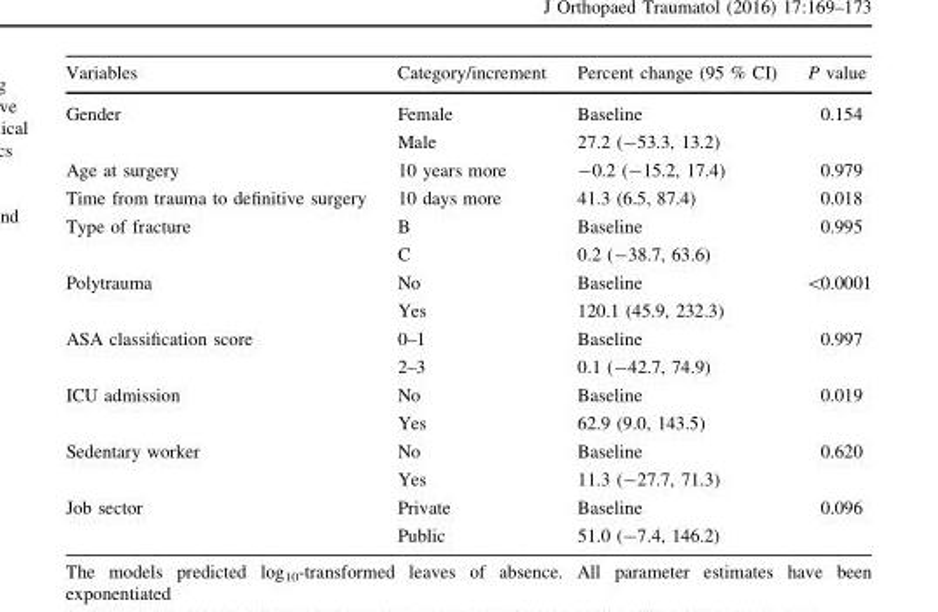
<table><thead><tr><td>Variables</td><td>Category/increment</td><td>Percent change (95 % CI)</td><td>P value</td></tr></thead><tbody><tr><td rowspan="2">Gender</td><td>Female</td><td>Baseline</td><td>0.154</td></tr><tr><td>Male</td><td>27.2 (-53.3, 13.2)</td><td></td></tr><tr><td>Age at surgery</td><td>10 years more</td><td>-0.2 (-15.2, 17.4)</td><td>0.979</td></tr><tr><td>Time from trauma to definitive surgery</td><td>10 days more</td><td>41.3 (6.5, 87.4)</td><td>0.018</td></tr><tr><td rowspan="2">Type of fracture</td><td>B</td><td>Baseline</td><td>0.995</td></tr><tr><td>C</td><td>0.2 (-38.7, 63.6)</td><td></td></tr><tr><td rowspan="2">Polytrauma</td><td>No</td><td>Baseline</td><td>&lt;0.0001</td></tr><tr><td>Yes</td><td>120.1 (45.9, 232.3)</td><td></td></tr><tr><td rowspan="2">ASA classification score</td><td>0–1</td><td>Baseline</td><td>0.997</td></tr><tr><td>2–3</td><td>0.1 (-42.7, 74.9)</td><td></td></tr><tr><td rowspan="2">ICU admission</td><td>No</td><td>Baseline</td><td>0.019</td></tr><tr><td>Yes</td><td>62.9 (9.0, 143.5)</td><td></td></tr><tr><td rowspan="2">Sedentary worker</td><td>No</td><td>Baseline</td><td>0.620</td></tr><tr><td>Yes</td><td>11.3 (-27.7, 71.3)</td><td></td></tr><tr><td rowspan="2">Job sector</td><td>Private</td><td>Baseline</td><td>0.096</td></tr><tr><td>Public</td><td>51.0 (-7.4, 146.2)</td><td></td></tr></tbody></table>